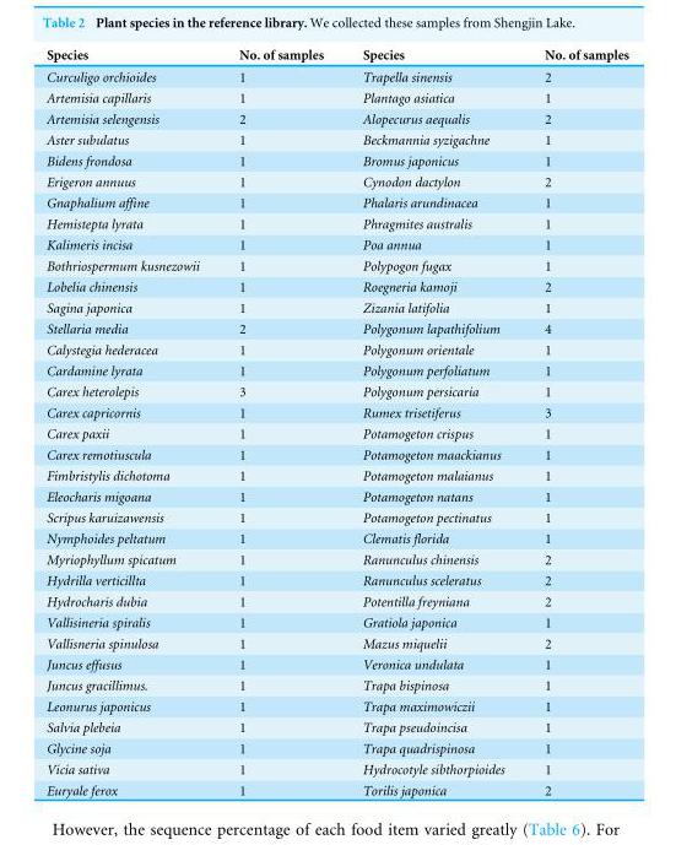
<table><thead><tr><td>Species</td><td>No. of samples</td><td>Species</td><td>No. of samples</td></tr></thead><tbody><tr><td>Curculigo orchioides</td><td>1</td><td>Trapella sinensis</td><td>2</td></tr><tr><td>Artemisia capillaris</td><td>1</td><td>Plantago asiatica</td><td>1</td></tr><tr><td>Artemisia selengensis</td><td>2</td><td>Alopecurus aequalis</td><td>2</td></tr><tr><td>Aster subulatus</td><td>1</td><td>Beckmannia syzigachne</td><td>1</td></tr><tr><td>Bidens frondosa</td><td>1</td><td>Bromus japonicus</td><td>1</td></tr><tr><td>Erigeron annuus</td><td>1</td><td>Cynodon dactylon</td><td>2</td></tr><tr><td>Gnaphalium affine</td><td>1</td><td>Phalaris arundinacea</td><td>1</td></tr><tr><td>Hemistepta lyrata</td><td>1</td><td>Phragmites australis</td><td>1</td></tr><tr><td>Kalimeris incisa</td><td>1</td><td>Poa annua</td><td>1</td></tr><tr><td>Bothriospermum kusnezowii</td><td>1</td><td>Polypogon fugax</td><td>1</td></tr><tr><td>Lobelia chinensis</td><td>1</td><td>Roegneria kamoji</td><td>2</td></tr><tr><td>Sagina japonica</td><td>1</td><td>Zizania latifolia</td><td>1</td></tr><tr><td>Stellaria media</td><td>2</td><td>Polygonum lapathifolium</td><td>4</td></tr><tr><td>Calystegia hederacea</td><td>1</td><td>Polygonum orientale</td><td>1</td></tr><tr><td>Cardamine lyrata</td><td>1</td><td>Polygonum perfoliatum</td><td>1</td></tr><tr><td>Carex heterolepis</td><td>3</td><td>Polygonum persicaria</td><td>1</td></tr><tr><td>Carex capricornis</td><td>1</td><td>Rumex trisetiferus</td><td>3</td></tr><tr><td>Carex paxii</td><td>1</td><td>Potamogeton crispus</td><td>1</td></tr><tr><td>Carex remotiuscula</td><td>1</td><td>Potamogeton maackianus</td><td>1</td></tr><tr><td>Fimbristylis dichotoma</td><td>1</td><td>Potamogeton malaianus</td><td>1</td></tr><tr><td>Eleocharis migoana</td><td>1</td><td>Potamogeton natans</td><td>1</td></tr><tr><td>Scripus karuizawensis</td><td>1</td><td>Potamogeton pectinatus</td><td>1</td></tr><tr><td>Nymphoides peltatum</td><td>1</td><td>Clematis florida</td><td>1</td></tr><tr><td>Myriophyllum spicatum</td><td>1</td><td>Ranunculus chinensis</td><td>2</td></tr><tr><td>Hydrilla verticillta</td><td>1</td><td>Ranunculus sceleratus</td><td>2</td></tr><tr><td>Hydrocharis dubia</td><td>1</td><td>Potentilla freyniana</td><td>2</td></tr><tr><td>Vallisineria spiralis</td><td>1</td><td>Gratiola japonica</td><td>1</td></tr><tr><td>Vallisneria spinulosa</td><td>1</td><td>Mazus miquelii</td><td>2</td></tr><tr><td>Juncus effusus</td><td>1</td><td>Veronica undulata</td><td>1</td></tr><tr><td>Juncus gracillimus.</td><td>1</td><td>Trapa bispinosa</td><td>1</td></tr><tr><td>Leonurus japonicus</td><td>1</td><td>Trapa maximowiczii</td><td>1</td></tr><tr><td>Salvia plebeia</td><td>1</td><td>Trapa pseudoincisa</td><td>1</td></tr><tr><td>Glycine soja</td><td>1</td><td>Trapa quadrispinosa</td><td>1</td></tr><tr><td>Vicia sativa</td><td>1</td><td>Hydrocotyle sibthorpioides</td><td>1</td></tr><tr><td>Euryale ferox</td><td>1</td><td>Torilis japonica</td><td>2</td></tr></tbody></table>